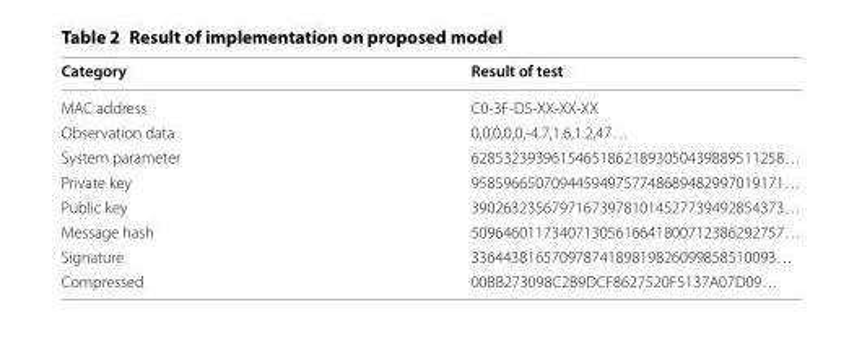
<table><thead><tr><td>Category</td><td>Result of test</td></tr></thead><tbody><tr><td>MAC address</td><td>C0-3F-D5-XX-XX-XX</td></tr><tr><td>Observation data</td><td>0,0,0,0,0,-4.7,1.6,1.2,47…</td></tr><tr><td>System parameter</td><td>628532393961546518621893050439889511258…</td></tr><tr><td>Private key</td><td>958596650709445949757748689482997019171…</td></tr><tr><td>Public key</td><td>390263235679716739781014527739492854373…</td></tr><tr><td>Message hash</td><td>509646011734071305616641800712386292757…</td></tr><tr><td>Signature</td><td>33644381657097874189819826099858510093…</td></tr><tr><td>Compressed</td><td>00BB273098C2B9DCF8627520F5137A07D09…</td></tr></tbody></table>